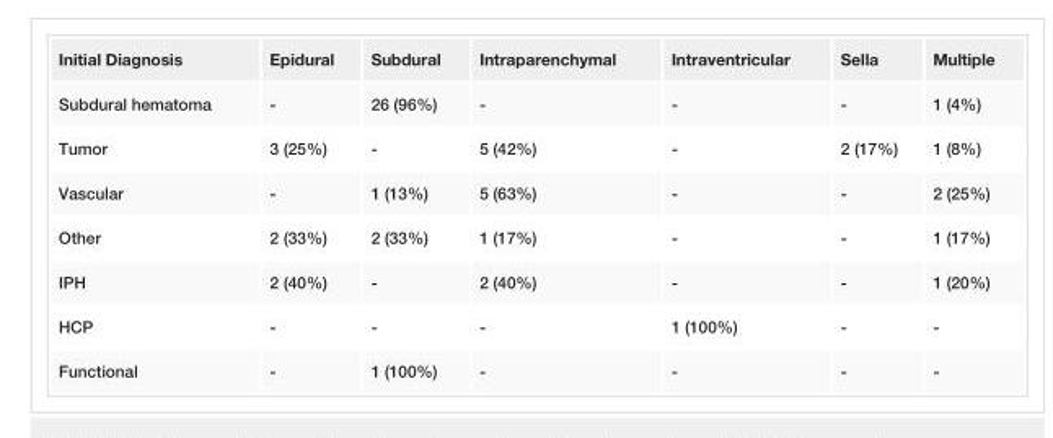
<table><tbody><tr><td>Initial Diagnosis</td><td>Epidural</td><td>Subdural</td><td>Intraparenchymal</td><td>Intraventricular</td><td>Sella</td><td>Multiple</td></tr><tr><td>Subdural hematoma</td><td>-</td><td>26 (96%)</td><td>-</td><td>-</td><td>-</td><td>1 (4%)</td></tr><tr><td>Tumor</td><td>3 (25%)</td><td>-</td><td>5 (42%)</td><td>-</td><td>2 (17%)</td><td>1 (8%)</td></tr><tr><td>Vascular</td><td>-</td><td>1 (13%)</td><td>5 (63%)</td><td>-</td><td>-</td><td>2 (25%)</td></tr><tr><td>Other</td><td>2 (33%)</td><td>2 (33%)</td><td>1 (17%)</td><td>-</td><td>-</td><td>1 (17%)</td></tr><tr><td>IPH</td><td>2 (40%)</td><td>-</td><td>2 (40%)</td><td>-</td><td>-</td><td>1 (20%)</td></tr><tr><td>HCP</td><td>-</td><td>-</td><td>-</td><td>1 (100%)</td><td>-</td><td>-</td></tr><tr><td>Functional</td><td>-</td><td>1 (100%)</td><td>-</td><td>-</td><td>-</td><td>-</td></tr></tbody></table>